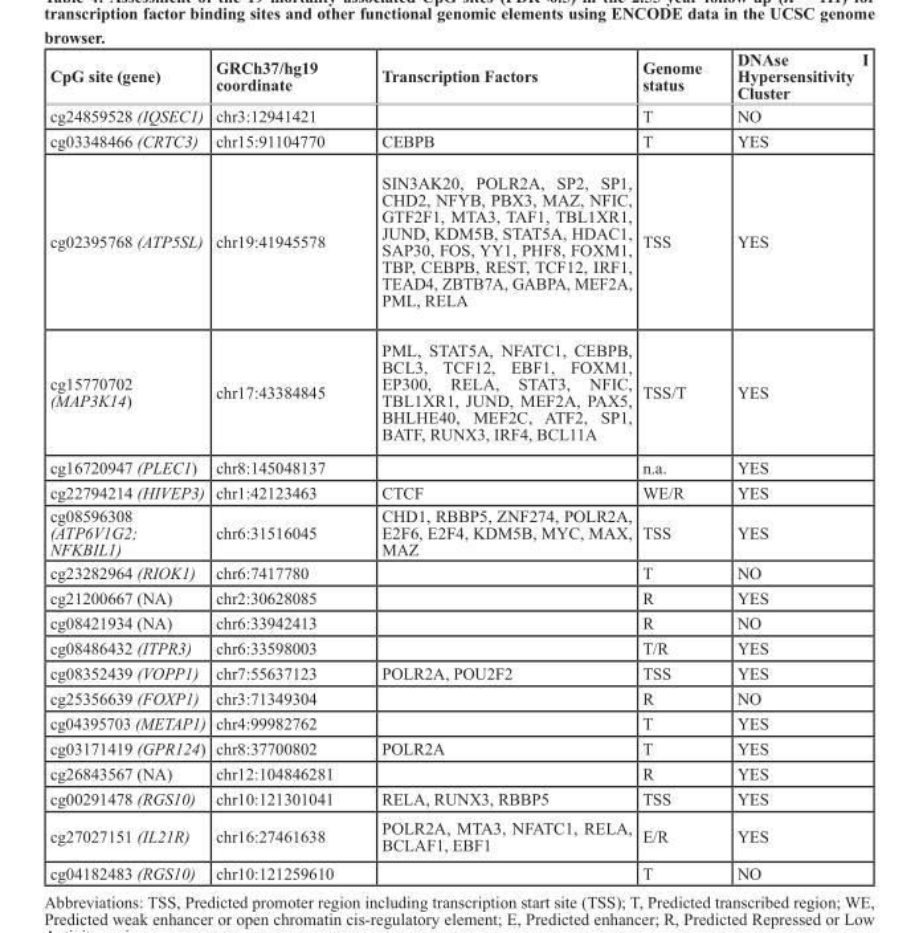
<table><thead><tr><td>CpG site (gene)</td><td>GRCh37/hg19 coordinate</td><td>Transcription Factors</td><td>Genome status</td><td>DNAse I Hypersensitivity Cluster</td></tr></thead><tbody><tr><td>cg24859528 (IQSEC1)</td><td>chr3:12941421</td><td></td><td>T</td><td>NO</td></tr><tr><td>cg03348466 (CRTC3)</td><td>chr15:91104770</td><td>CEBPB</td><td>T</td><td>YES</td></tr><tr><td>cg02395768 (ATP5SL)</td><td>chr19:41945578</td><td>SIN3AK20, POLR2A, SP2, SP1, CHD2, NFYB, PBX3, MAZ, NFIC, GTF2F1, MTA3, TAF1, TBL1XR1, JUND, KDM5B, STAT5A, HDAC1, SAP30, FOS, YY1, PHF8, FOXM1, TBP, CEBPB, REST, TCF12, IRF1, TEAD4, ZBTB7A, GABPA, MEF2A, PML, RELA</td><td>TSS</td><td>YES</td></tr><tr><td>cg15770702 (MAP3K14)</td><td>chr17:43384845</td><td>PML, STAT5A, NFATC1, CEBPB, BCL3, TCF12, EBF1, FOXM1, EP300, RELA, STAT3, NFIC, TBL1XR1, JUND, MEF2A, PAX5, BHLHE40, MEF2C, ATF2, SP1, BATF, RUNX3, IRF4, BCL11A</td><td>TSS/T</td><td>YES</td></tr><tr><td>cg16720947 (PLEC1)</td><td>chr8:145048137</td><td></td><td>n.a.</td><td>YES</td></tr><tr><td>cg22794214 (HIVEP3)</td><td>chr1:42123463</td><td>CTCF</td><td>WE/R</td><td>YES</td></tr><tr><td>cg08596308 (ATP6V1G2; NFKBIL1)</td><td>chr6:31516045</td><td>CHD1, RBBP5, ZNF274, POLR2A, E2F6, E2F4, KDM5B, MYC, MAX, MAZ</td><td>TSS</td><td>YES</td></tr><tr><td>cg23282964 (RIOK1)</td><td>chr6:7417780</td><td></td><td>T</td><td>NO</td></tr><tr><td>cg21200667 (NA)</td><td>chr2:30628085</td><td></td><td>R</td><td>YES</td></tr><tr><td>cg08421934 (NA)</td><td>chr6:33942413</td><td></td><td>R</td><td>NO</td></tr><tr><td>cg08486432 (ITPR3)</td><td>chr6:33598003</td><td></td><td>T/R</td><td>YES</td></tr><tr><td>cg08352439 (VOPP1)</td><td>chr7:55637123</td><td>POLR2A, POU2F2</td><td>TSS</td><td>YES</td></tr><tr><td>cg25356639 (FOXP1)</td><td>chr3:71349304</td><td></td><td>R</td><td>NO</td></tr><tr><td>cg04395703 (METAP1)</td><td>chr4:99982762</td><td></td><td>T</td><td>YES</td></tr><tr><td>cg03171419 (GPR124)</td><td>chr8:37700802</td><td>POLR2A</td><td>T</td><td>YES</td></tr><tr><td>cg26843567 (NA)</td><td>chr12:104846281</td><td></td><td>R</td><td>YES</td></tr><tr><td>cg00291478 (RGS10)</td><td>chr10:121301041</td><td>RELA, RUNX3, RBBP5</td><td>TSS</td><td>YES</td></tr><tr><td>cg27027151 (IL21R)</td><td>chr16:27461638</td><td>POLR2A, MTA3, NFATC1, RELA, BCLAF1, EBF1</td><td>E/R</td><td>YES</td></tr><tr><td>cg04182483 (RGS10)</td><td>chr10:121259610</td><td></td><td>T</td><td>NO</td></tr></tbody></table>